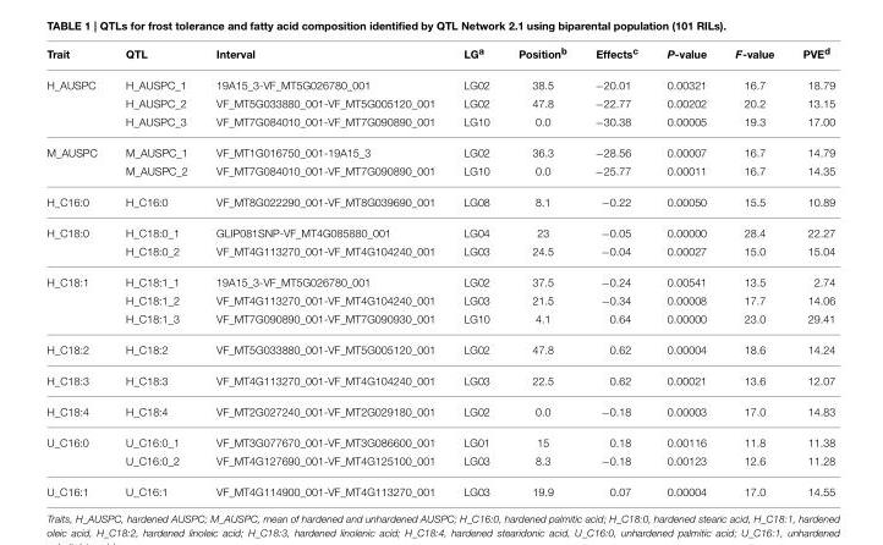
<table><thead><tr><td>Trait</td><td>QTL</td><td>Interval</td><td>LG<sup>a</sup></td><td>Position<sup>b</sup></td><td>Effects<sup>c</sup></td><td>P-value</td><td>F-value</td><td>PVE<sup>d</sup></td></tr></thead><tbody><tr><td rowspan="3">H_AUSPC</td><td>H_AUSPC_1</td><td>19A15_3-VF_MT5G026780_001</td><td>LG02</td><td>38.5</td><td>−20.01</td><td>0.00321</td><td>16.7</td><td>18.79</td></tr><tr><td>H_AUSPC_2</td><td>VF_MT5G033880_001-VF_MT5G005120_001</td><td>LG02</td><td>47.8</td><td>−22.77</td><td>0.00202</td><td>20.2</td><td>13.15</td></tr><tr><td>H_AUSPC_3</td><td>VF_MT7G084010_001-VF_MT7G090890_001</td><td>LG10</td><td>0.0</td><td>−30.38</td><td>0.00005</td><td>19.3</td><td>17.00</td></tr><tr><td rowspan="2">M_AUSPC</td><td>M_AUSPC_1</td><td>VF_MT1G016750_001-19A15_3</td><td>LG02</td><td>36.3</td><td>−28.56</td><td>0.00007</td><td>16.7</td><td>14.79</td></tr><tr><td>M_AUSPC_2</td><td>VF_MT7G084010_001-VF_MT7G090890_001</td><td>LG10</td><td>0.0</td><td>−25.77</td><td>0.00011</td><td>16.7</td><td>14.35</td></tr><tr><td>H_C16:0</td><td>H_C16:0</td><td>VF_MT8G022290_001-VF_MT8G039690_001</td><td>LG08</td><td>8.1</td><td>−0.22</td><td>0.00050</td><td>15.5</td><td>10.89</td></tr><tr><td rowspan="2">H_C18:0</td><td>H_C18:0_1</td><td>GLIP081SNP-VF_MT4G085880_001</td><td>LG04</td><td>23</td><td>−0.05</td><td>0.00000</td><td>28.4</td><td>22.27</td></tr><tr><td>H_C18:0_2</td><td>VF_MT4G113270_001-VF_MT4G104240_001</td><td>LG03</td><td>24.5</td><td>−0.04</td><td>0.00027</td><td>15.0</td><td>15.04</td></tr><tr><td rowspan="3">H_C18:1</td><td>H_C18:1_1</td><td>19A15_3-VF_MT5G026780_001</td><td>LG02</td><td>37.5</td><td>−0.24</td><td>0.00541</td><td>13.5</td><td>2.74</td></tr><tr><td>H_C18:1_2</td><td>VF_MT4G113270_001-VF_MT4G104240_001</td><td>LG03</td><td>21.5</td><td>−0.34</td><td>0.00008</td><td>17.7</td><td>14.06</td></tr><tr><td>H_C18:1_3</td><td>VF_MT7G090890_001-VF_MT7G090930_001</td><td>LG10</td><td>4.1</td><td>0.64</td><td>0.00000</td><td>23.0</td><td>29.41</td></tr><tr><td>H_C18:2</td><td>H_C18:2</td><td>VF_MT5G033880_001-VF_MT5G005120_001</td><td>LG02</td><td>47.8</td><td>0.62</td><td>0.00004</td><td>18.6</td><td>14.24</td></tr><tr><td>H_C18:3</td><td>H_C18:3</td><td>VF_MT4G113270_001-VF_MT4G104240_001</td><td>LG03</td><td>22.5</td><td>0.62</td><td>0.00021</td><td>13.6</td><td>12.07</td></tr><tr><td>H_C18:4</td><td>H_C18:4</td><td>VF_MT2G027240_001-VF_MT2G029180_001</td><td>LG02</td><td>0.0</td><td>−0.18</td><td>0.00003</td><td>17.0</td><td>14.83</td></tr><tr><td rowspan="2">U_C16:0</td><td>U_C16:0_1</td><td>VF_MT3G077670_001-VF_MT3G086600_001</td><td>LG01</td><td>15</td><td>0.18</td><td>0.00116</td><td>11.8</td><td>11.38</td></tr><tr><td>U_C16:0_2</td><td>VF_MT4G127690_001-VF_MT4G125100_001</td><td>LG03</td><td>8.3</td><td>−0.18</td><td>0.00123</td><td>12.6</td><td>11.28</td></tr><tr><td>U_C16:1</td><td>U_C16:1</td><td>VF_MT4G114900_001-VF_MT4G113270_001</td><td>LG03</td><td>19.9</td><td>0.07</td><td>0.00004</td><td>17.0</td><td>14.55</td></tr></tbody></table>